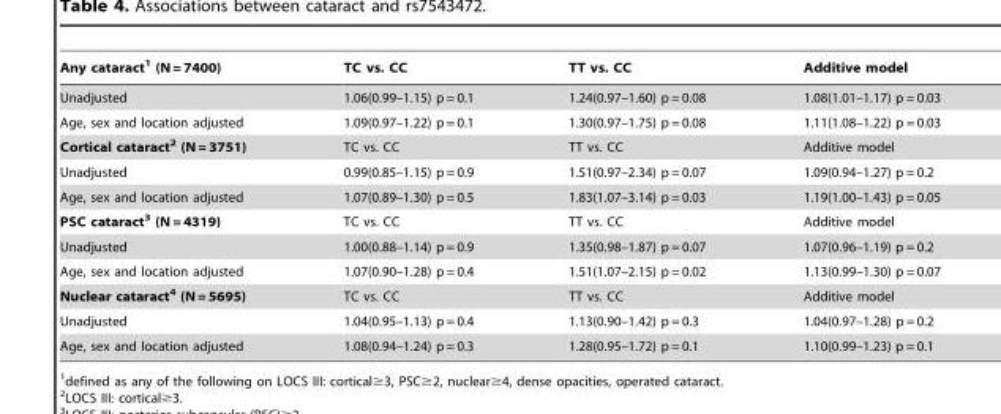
<table><thead><tr><td>Any cataract<sup>1</sup> (N = 7400)</td><td>TC vs. CC</td><td>TT vs. CC</td><td>Additive model</td></tr></thead><tbody><tr><td>Unadjusted</td><td>1.06(0.99–1.15) p = 0.1</td><td>1.24(0.97–1.60) p = 0.08</td><td>1.08(1.01–1.17) p = 0.03</td></tr><tr><td>Age, sex and location adjusted</td><td>1.09(0.97–1.22) p = 0.1</td><td>1.30(0.97–1.75) p = 0.08</td><td>1.11(1.08–1.22) p = 0.03</td></tr><tr><td>Cortical cataract2 (N = 3751)</td><td>TC vs. CC</td><td>TT vs. CC</td><td>Additive model</td></tr><tr><td>Unadjusted</td><td>0.99(0.85–1.15) p = 0.9</td><td>1.51(0.97–2.34) p = 0.07</td><td>1.09(0.94–1.27) p = 0.2</td></tr><tr><td>Age, sex and location adjusted</td><td>1.07(0.89–1.30) p = 0.5</td><td>1.83(1.07–3.14) p = 0.03</td><td>1.19(1.00–1.43) p = 0.05</td></tr><tr><td>PSC cataract3 (N = 4319)</td><td>TC vs. CC</td><td>TT vs. CC</td><td>Additive model</td></tr><tr><td>Unadjusted</td><td>1.00(0.88–1.14) p = 0.9</td><td>1.35(0.98–1.87) p = 0.07</td><td>1.07(0.96–1.19) p = 0.2</td></tr><tr><td>Age, sex and location adjusted</td><td>1.07(0.90–1.28) p = 0.4</td><td>1.51(1.07–2.15) p = 0.02</td><td>1.13(0.99–1.30) p = 0.07</td></tr><tr><td>Nuclear cataract4 (N = 5695)</td><td>TC vs. CC</td><td>TT vs. CC</td><td>Additive model</td></tr><tr><td>Unadjusted</td><td>1.04(0.95–1.13) p = 0.4</td><td>1.13(0.90–1.42) p = 0.3</td><td>1.04(0.97–1.28) p = 0.2</td></tr><tr><td>Age, sex and location adjusted</td><td>1.08(0.94–1.24) p = 0.3</td><td>1.28(0.95–1.72) p = 0.1</td><td>1.10(0.99–1.23) p = 0.1</td></tr></tbody></table>